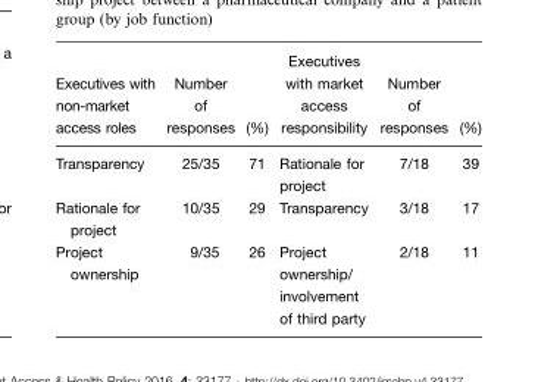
<table><thead><tr><td>Executives with non-market access roles</td><td>Number of responses</td><td>(%)</td><td>Executives with market access responsibility</td><td>Number of responses</td><td>(%)</td></tr></thead><tbody><tr><td>Transparency</td><td>25/35</td><td>71</td><td>Rationale for project</td><td>7/18</td><td>39</td></tr><tr><td>Rationale for project</td><td>10/35</td><td>29</td><td>Transparency</td><td>3/18</td><td>17</td></tr><tr><td>Project ownership</td><td>9/35</td><td>26</td><td>Project ownership/ involvement of third party</td><td>2/18</td><td>11</td></tr></tbody></table>